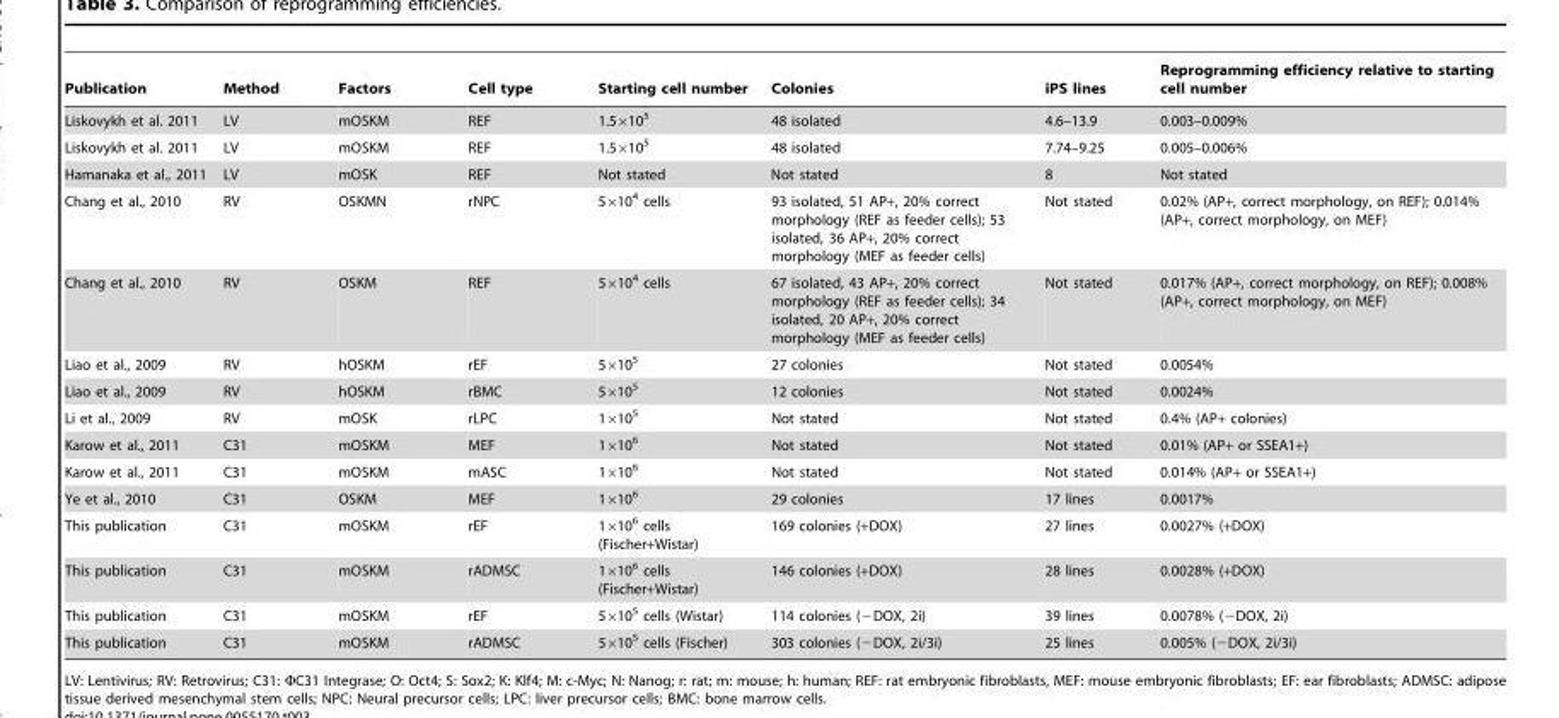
<table><thead><tr><td>Publication</td><td>Method</td><td>Factors</td><td>Cell type</td><td>Starting cell number</td><td>Colonies</td><td>iPS lines</td><td>Reprogramming efficiency relative to starting cell number</td></tr></thead><tbody><tr><td>Liskovykh et al. 2011</td><td>LV</td><td>mOSKM</td><td>REF</td><td>1.5×10<sup>5</sup></td><td>48 isolated</td><td>4.6–13.9</td><td>0.003–0.009%</td></tr><tr><td>Liskovykh et al. 2011</td><td>LV</td><td>mOSKM</td><td>REF</td><td>1.5×10<sup>5</sup></td><td>48 isolated</td><td>7.74–9.25</td><td>0.005–0.006%</td></tr><tr><td>Hamanaka et al., 2011</td><td>LV</td><td>mOSK</td><td>REF</td><td>Not stated</td><td>Not stated</td><td>8</td><td>Not stated</td></tr><tr><td>Chang et al., 2010</td><td>RV</td><td>OSKMN</td><td>rNPC</td><td>5×10<sup>4</sup> cells</td><td>93 isolated, 51 AP+, 20% correct morphology (REF as feeder cells); 53 isolated, 36 AP+, 20% correct morphology (MEF as feeder cells)</td><td>Not stated</td><td>0.02% (AP+, correct morphology, on REF); 0.014% (AP+, correct morphology, on MEF)</td></tr><tr><td>Chang et al., 2010</td><td>RV</td><td>OSKM</td><td>REF</td><td>5×10<sup>4</sup> cells</td><td>67 isolated, 43 AP+, 20% correct morphology (REF as feeder cells); 34 isolated, 20 AP+, 20% correct morphology (MEF as feeder cells)</td><td>Not stated</td><td>0.017% (AP+, correct morphology, on REF); 0.008% (AP+, correct morphology, on MEF)</td></tr><tr><td>Liao et al., 2009</td><td>RV</td><td>hOSKM</td><td>rEF</td><td>5×10<sup>5</sup></td><td>27 colonies</td><td>Not stated</td><td>0.0054%</td></tr><tr><td>Liao et al., 2009</td><td>RV</td><td>hOSKM</td><td>rBMC</td><td>5×10<sup>5</sup></td><td>12 colonies</td><td>Not stated</td><td>0.0024%</td></tr><tr><td>Li et al., 2009</td><td>RV</td><td>mOSK</td><td>rLPC</td><td>1×10<sup>5</sup></td><td>Not stated</td><td>Not stated</td><td>0.4% (AP+ colonies)</td></tr><tr><td>Karow et al., 2011</td><td>C31</td><td>mOSKM</td><td>MEF</td><td>1×10<sup>6</sup></td><td>Not stated</td><td>Not stated</td><td>0.01% (AP+ or SSEA1+)</td></tr><tr><td>Karow et al., 2011</td><td>C31</td><td>mOSKM</td><td>mASC</td><td>1×10<sup>6</sup></td><td>Not stated</td><td>Not stated</td><td>0.014% (AP+ or SSEA1+)</td></tr><tr><td>Ye et al., 2010</td><td>C31</td><td>OSKM</td><td>MEF</td><td>1×10<sup>6</sup></td><td>29 colonies</td><td>17 lines</td><td>0.0017%</td></tr><tr><td>This publication</td><td>C31</td><td>mOSKM</td><td>rEF</td><td>1×10<sup>6</sup> cells (Fischer+Wistar)</td><td>169 colonies (+DOX)</td><td>27 lines</td><td>0.0027% (+DOX)</td></tr><tr><td>This publication</td><td>C31</td><td>mOSKM</td><td>rADMSC</td><td>1×10<sup>6</sup> cells (Fischer+Wistar)</td><td>146 colonies (+DOX)</td><td>28 lines</td><td>0.0028% (+DOX)</td></tr><tr><td>This publication</td><td>C31</td><td>mOSKM</td><td>rEF</td><td>5×10<sup>5</sup> cells (Wistar)</td><td>114 colonies (−DOX, 2i)</td><td>39 lines</td><td>0.0078% (−DOX, 2i)</td></tr><tr><td>This publication</td><td>C31</td><td>mOSKM</td><td>rADMSC</td><td>5×10<sup>5</sup> cells (Fischer)</td><td>303 colonies (−DOX, 2i/3i)</td><td>25 lines</td><td>0.005% (−DOX, 2i/3i)</td></tr></tbody></table>